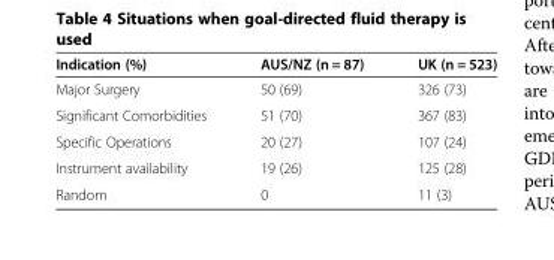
<table><thead><tr><td>Indication (%)</td><td>AUS/NZ (n = 87)</td><td>UK (n = 523)</td></tr></thead><tbody><tr><td>Major Surgery</td><td>50 (69)</td><td>326 (73)</td></tr><tr><td>Significant Comorbidities</td><td>51 (70)</td><td>367 (83)</td></tr><tr><td>Specific Operations</td><td>20 (27)</td><td>107 (24)</td></tr><tr><td>Instrument availability</td><td>19 (26)</td><td>125 (28)</td></tr><tr><td>Random</td><td>0</td><td>11 (3)</td></tr></tbody></table>